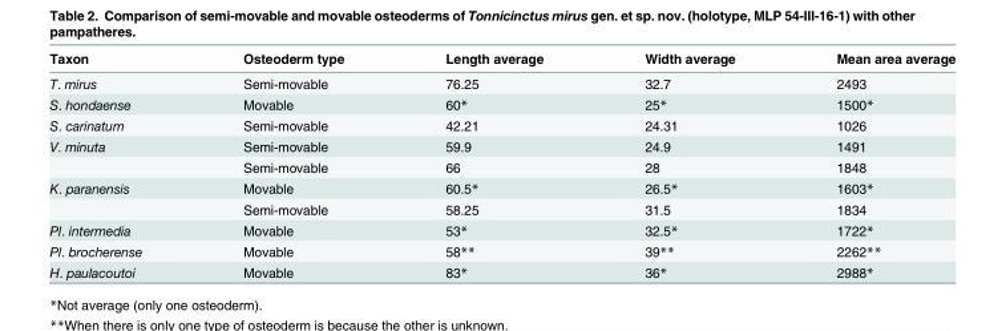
<table><thead><tr><td>Taxon</td><td>Osteoderm type</td><td>Length average</td><td>Width average</td><td>Mean area average</td></tr></thead><tbody><tr><td>T. mirus</td><td>Semi-movable</td><td>76.25</td><td>32.7</td><td>2493</td></tr><tr><td>S. hondaense</td><td>Movable</td><td>60*</td><td>25*</td><td>1500*</td></tr><tr><td>S. carinatum</td><td>Semi-movable</td><td>42.21</td><td>24.31</td><td>1026</td></tr><tr><td rowspan="2">V. minuta</td><td>Semi-movable</td><td>59.9</td><td>24.9</td><td>1491</td></tr><tr><td>Semi-movable</td><td>66</td><td>28</td><td>1848</td></tr><tr><td rowspan="2">K. paranensis</td><td>Movable</td><td>60.5*</td><td>26.5*</td><td>1603*</td></tr><tr><td>Semi-movable</td><td>58.25</td><td>31.5</td><td>1834</td></tr><tr><td>Pl. intermedia</td><td>Movable</td><td>53*</td><td>32.5*</td><td>1722*</td></tr><tr><td>Pl. brocherense</td><td>Movable</td><td>58**</td><td>39**</td><td>2262**</td></tr><tr><td>H. paulacoutoi</td><td>Movable</td><td>83*</td><td>36*</td><td>2988*</td></tr></tbody></table>